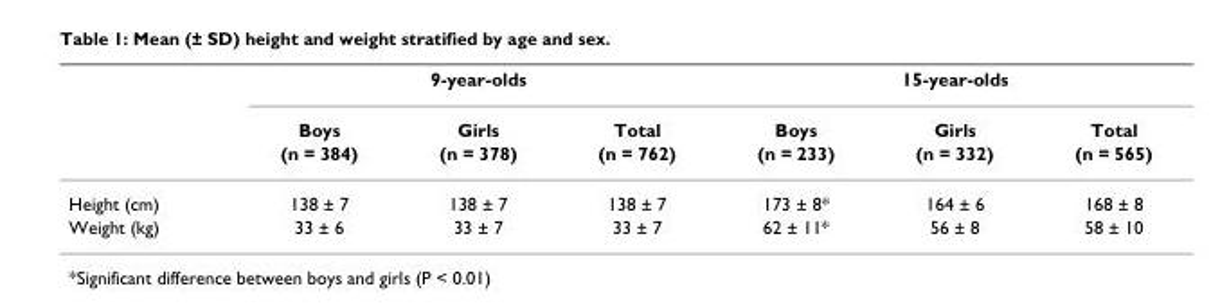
<table><thead><tr><td rowspan="3"></td><td colspan="3">9-year-olds</td><td colspan="3">15-year-olds</td></tr><tr><td rowspan="2">Boys (n = 384)</td><td rowspan="2">Girls (n = 378)</td><td rowspan="2">Total (n = 762)</td><td rowspan="2">Boys (n = 233)</td><td rowspan="2">Girls (n = 332)</td><td rowspan="2">Total (n = 565)</td></tr><tr></tr></thead><tbody><tr><td>Height (cm)</td><td>138 ± 7</td><td>138 ± 7</td><td>138 ± 7</td><td>173 ± 8*</td><td>164 ± 6</td><td>168 ± 8</td></tr><tr><td>Weight (kg)</td><td>33 ± 6</td><td>33 ± 7</td><td>33 ± 7</td><td>62 ± 11*</td><td>56 ± 8</td><td>58 ± 10</td></tr></tbody></table>